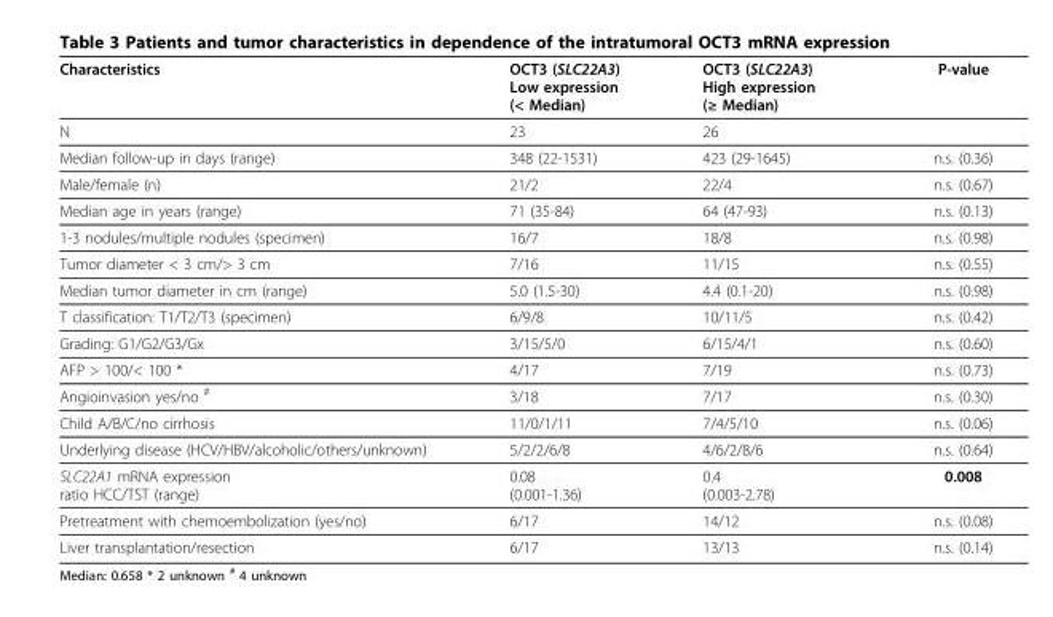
<table><thead><tr><td>Characteristics</td><td>OCT3 (SLC22A3) Low expression (&lt; Median)</td><td>OCT3 (SLC22A3) High expression (≥ Median)</td><td>P-value</td></tr></thead><tbody><tr><td>N</td><td>23</td><td>26</td><td></td></tr><tr><td>Median follow-up in days (range)</td><td>348 (22-1531)</td><td>423 (29-1645)</td><td>n.s. (0.36)</td></tr><tr><td>Male/female (n)</td><td>21/2</td><td>22/4</td><td>n.s. (0.67)</td></tr><tr><td>Median age in years (range)</td><td>71 (35-84)</td><td>64 (47-93)</td><td>n.s. (0.13)</td></tr><tr><td>1-3 nodules/multiple nodules (specimen)</td><td>16/7</td><td>18/8</td><td>n.s. (0.98)</td></tr><tr><td>Tumor diameter &lt; 3 cm/&gt; 3 cm</td><td>7/16</td><td>11/15</td><td>n.s. (0.55)</td></tr><tr><td>Median tumor diameter in cm (range)</td><td>5.0 (1.5-30)</td><td>4.4 (0.1-20)</td><td>n.s. (0.98)</td></tr><tr><td>T classification: T1/T2/T3 (specimen)</td><td>6/9/8</td><td>10/11/5</td><td>n.s. (0.42)</td></tr><tr><td>Grading: G1/G2/G3/Gx</td><td>3/15/5/0</td><td>6/15/4/1</td><td>n.s. (0.60)</td></tr><tr><td>AFP &gt; 100/&lt; 100 *</td><td>4/17</td><td>7/19</td><td>n.s. (0.73)</td></tr><tr><td>Angioinvasion yes/no <sup>#</sup></td><td>3/18</td><td>7/17</td><td>n.s. (0.30)</td></tr><tr><td>Child A/B/C/no cirrhosis</td><td>11/0/1/11</td><td>7/4/5/10</td><td>n.s. (0.06)</td></tr><tr><td>Underlying disease (HCV/HBV/alcoholic/others/unknown)</td><td>5/2/2/6/8</td><td>4/6/2/8/6</td><td>n.s. (0.64)</td></tr><tr><td>SLC22A1 mRNA expression ratio HCC/TST (range)</td><td>0.08 (0.001-1.36)</td><td>0.4 (0.003-2.78)</td><td>0.008</td></tr><tr><td>Pretreatment with chemoembolization (yes/no)</td><td>6/17</td><td>14/12</td><td>n.s. (0.08)</td></tr><tr><td>Liver transplantation/resection</td><td>6/17</td><td>13/13</td><td>n.s. (0.14)</td></tr></tbody></table>